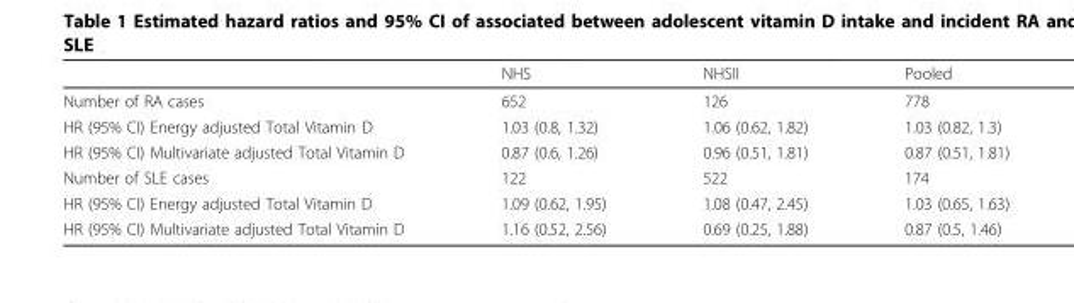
<table><thead><tr><td></td><td>NHS</td><td>NHSII</td><td>Pooled</td></tr></thead><tbody><tr><td>Number of RA cases</td><td>652</td><td>126</td><td>778</td></tr><tr><td>HR (95% CI) Energy adjusted Total Vitamin D</td><td>1.03 (0.8, 1.32)</td><td>1.06 (0.62, 1.82)</td><td>1.03 (0.82, 1.3)</td></tr><tr><td>HR (95% CI) Multivariate adjusted Total Vitamin D</td><td>0.87 (0.6, 1.26)</td><td>0.96 (0.51, 1.81)</td><td>0.87 (0.51, 1.81)</td></tr><tr><td>Number of SLE cases</td><td>122</td><td>522</td><td>174</td></tr><tr><td>HR (95% CI) Energy adjusted Total Vitamin D</td><td>1.09 (0.62, 1.95)</td><td>1.08 (0.47, 2.45)</td><td>1.03 (0.65, 1.63)</td></tr><tr><td>HR (95% CI) Multivariate adjusted Total Vitamin D</td><td>1.16 (0.52, 2.56)</td><td>0.69 (0.25, 1.88)</td><td>0.87 (0.5, 1.46)</td></tr></tbody></table>